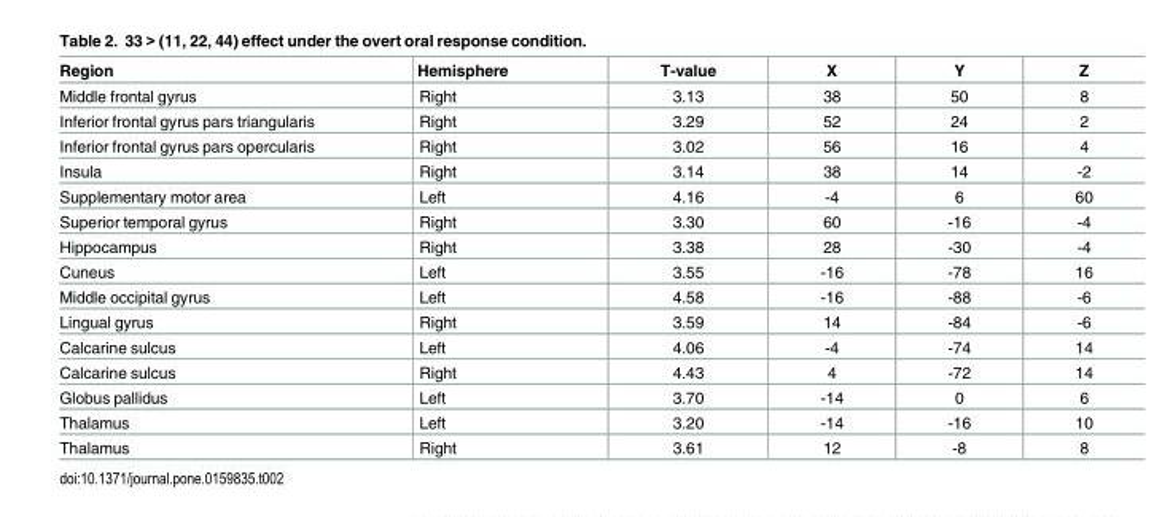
<table><thead><tr><td>Region</td><td>Hemisphere</td><td>T-value</td><td>X</td><td>Y</td><td>Z</td></tr></thead><tbody><tr><td>Middle frontal gyrus</td><td>Right</td><td>3.13</td><td>38</td><td>50</td><td>8</td></tr><tr><td>Inferior frontal gyrus pars triangularis</td><td>Right</td><td>3.29</td><td>52</td><td>24</td><td>2</td></tr><tr><td>Inferior frontal gyrus pars opercularis</td><td>Right</td><td>3.02</td><td>56</td><td>16</td><td>4</td></tr><tr><td>Insula</td><td>Right</td><td>3.14</td><td>38</td><td>14</td><td>-2</td></tr><tr><td>Supplementary motor area</td><td>Left</td><td>4.16</td><td>-4</td><td>6</td><td>60</td></tr><tr><td>Superior temporal gyrus</td><td>Right</td><td>3.30</td><td>60</td><td>-16</td><td>-4</td></tr><tr><td>Hippocampus</td><td>Right</td><td>3.38</td><td>28</td><td>-30</td><td>-4</td></tr><tr><td>Cuneus</td><td>Left</td><td>3.55</td><td>-16</td><td>-78</td><td>16</td></tr><tr><td>Middle occipital gyrus</td><td>Left</td><td>4.58</td><td>-16</td><td>-88</td><td>-6</td></tr><tr><td>Lingual gyrus</td><td>Right</td><td>3.59</td><td>14</td><td>-84</td><td>-6</td></tr><tr><td>Calcarine sulcus</td><td>Left</td><td>4.06</td><td>-4</td><td>-74</td><td>14</td></tr><tr><td>Calcarine sulcus</td><td>Right</td><td>4.43</td><td>4</td><td>-72</td><td>14</td></tr><tr><td>Globus pallidus</td><td>Left</td><td>3.70</td><td>-14</td><td>0</td><td>6</td></tr><tr><td>Thalamus</td><td>Left</td><td>3.20</td><td>-14</td><td>-16</td><td>10</td></tr><tr><td>Thalamus</td><td>Right</td><td>3.61</td><td>12</td><td>-8</td><td>8</td></tr></tbody></table>